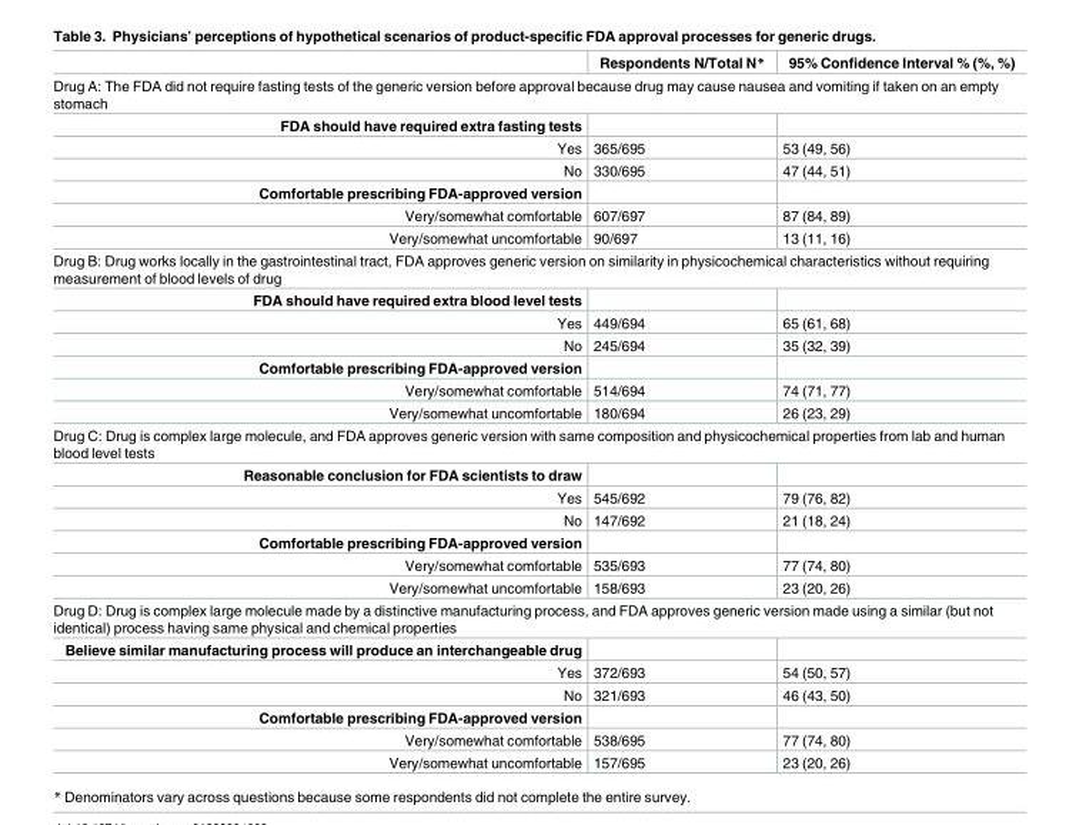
<table><thead><tr><td></td><td>Respondents N/Total N*</td><td>95% Confidence Interval % (%, %)</td></tr></thead><tbody><tr><td colspan="3">Drug A: The FDA did not require fasting tests of the generic version before approval because drug may cause nausea and vomiting if taken on an empty stomach</td></tr><tr><td colspan="3">FDA should have required extra fasting tests</td></tr><tr><td>Yes</td><td>365/695</td><td>53 (49, 56)</td></tr><tr><td>No</td><td>330/695</td><td>47 (44, 51)</td></tr><tr><td colspan="3">Comfortable prescribing FDA-approved version</td></tr><tr><td>Very/somewhat comfortable</td><td>607/697</td><td>87 (84, 89)</td></tr><tr><td>Very/somewhat uncomfortable</td><td>90/697</td><td>13 (11, 16)</td></tr><tr><td colspan="3">Drug B: Drug works locally in the gastrointestinal tract, FDA approves generic version on similarity in physicochemical characteristics without requiring measurement of blood levels of drug</td></tr><tr><td colspan="3">FDA should have required extra blood level tests</td></tr><tr><td>Yes</td><td>449/694</td><td>65 (61, 68)</td></tr><tr><td>No</td><td>245/694</td><td>35 (32, 39)</td></tr><tr><td colspan="3">Comfortable prescribing FDA-approved version</td></tr><tr><td>Very/somewhat comfortable</td><td>514/694</td><td>74 (71, 77)</td></tr><tr><td>Very/somewhat uncomfortable</td><td>180/694</td><td>26 (23, 29)</td></tr><tr><td colspan="3">Drug C: Drug is complex large molecule, and FDA approves generic version with same composition and physicochemical properties from lab and human blood level tests</td></tr><tr><td colspan="3">Reasonable conclusion for FDA scientists to draw</td></tr><tr><td>Yes</td><td>545/692</td><td>79 (76, 82)</td></tr><tr><td>No</td><td>147/692</td><td>21 (18, 24)</td></tr><tr><td colspan="3">Comfortable prescribing FDA-approved version</td></tr><tr><td>Very/somewhat comfortable</td><td>535/693</td><td>77 (74, 80)</td></tr><tr><td>Very/somewhat uncomfortable</td><td>158/693</td><td>23 (20, 26)</td></tr><tr><td colspan="3">Drug D: Drug is complex large molecule made by a distinctive manufacturing process, and FDA approves generic version made using a similar (but not identical) process having same physical and chemical properties</td></tr><tr><td colspan="3">Believe similar manufacturing process will produce an interchangeable drug</td></tr><tr><td>Yes</td><td>372/693</td><td>54 (50, 57)</td></tr><tr><td>No</td><td>321/693</td><td>46 (43, 50)</td></tr><tr><td colspan="3">Comfortable prescribing FDA-approved version</td></tr><tr><td>Very/somewhat comfortable</td><td>538/695</td><td>77 (74, 80)</td></tr><tr><td>Very/somewhat uncomfortable</td><td>157/695</td><td>23 (20, 26)</td></tr></tbody></table>